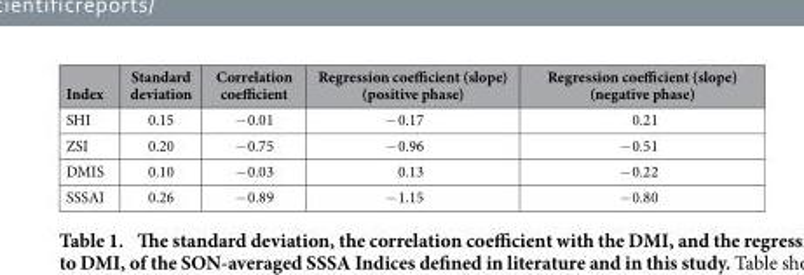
<table><thead><tr><td>Index</td><td>Standard deviation</td><td>Correlation coefficient</td><td>Regression coefficient (slope) (positive phase)</td><td>Regression coefficient (slope) (negative phase)</td></tr></thead><tbody><tr><td>SHI</td><td>0.15</td><td>− 0.01</td><td>− 0.17</td><td>0.21</td></tr><tr><td>ZSI</td><td>0.20</td><td>− 0.75</td><td>− 0.96</td><td>− 0.51</td></tr><tr><td>DMIS</td><td>0.10</td><td>− 0.03</td><td>0.13</td><td>− 0.22</td></tr><tr><td>SSSAI</td><td>0.26</td><td>− 0.89</td><td>− 1.15</td><td>− 0.80</td></tr></tbody></table>